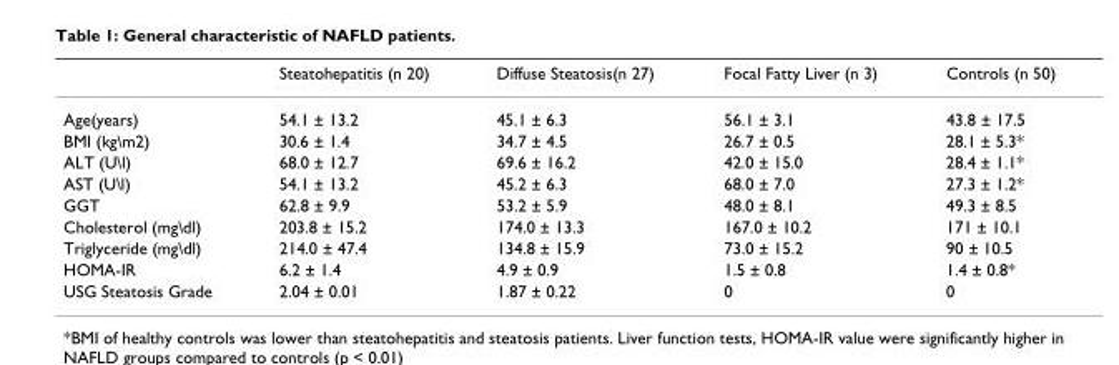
<table><thead><tr><td></td><td>Steatohepatitis (n 20)</td><td>Diffuse Steatosis(n 27)</td><td>Focal Fatty Liver (n 3)</td><td>Controls (n 50)</td></tr></thead><tbody><tr><td>Age(years)</td><td>54.1 ± 13.2</td><td>45.1 ± 6.3</td><td>56.1 ± 3.1</td><td>43.8 ± 17.5</td></tr><tr><td>BMI (kg\m2)</td><td>30.6 ± 1.4</td><td>34.7 ± 4.5</td><td>26.7 ± 0.5</td><td>28.1 ± 5.3*</td></tr><tr><td>ALT (U\l)</td><td>68.0 ± 12.7</td><td>69.6 ± 16.2</td><td>42.0 ± 15.0</td><td>28.4 ± 1.1*</td></tr><tr><td>AST (U\l)</td><td>54.1 ± 13.2</td><td>45.2 ± 6.3</td><td>68.0 ± 7.0</td><td>27.3 ± 1.2*</td></tr><tr><td>GGT</td><td>62.8 ± 9.9</td><td>53.2 ± 5.9</td><td>48.0 ± 8.1</td><td>49.3 ± 8.5</td></tr><tr><td>Cholesterol (mg\dl)</td><td>203.8 ± 15.2</td><td>174.0 ± 13.3</td><td>167.0 ± 10.2</td><td>171 ± 10.1</td></tr><tr><td>Triglyceride (mg\dl)</td><td>214.0 ± 47.4</td><td>134.8 ± 15.9</td><td>73.0 ± 15.2</td><td>90 ± 10.5</td></tr><tr><td>HOMA-IR</td><td>6.2 ± 1.4</td><td>4.9 ± 0.9</td><td>1.5 ± 0.8</td><td>1.4 ± 0.8*</td></tr><tr><td>USG Steatosis Grade</td><td>2.04 ± 0.01</td><td>1.87 ± 0.22</td><td>0</td><td>0</td></tr></tbody></table>